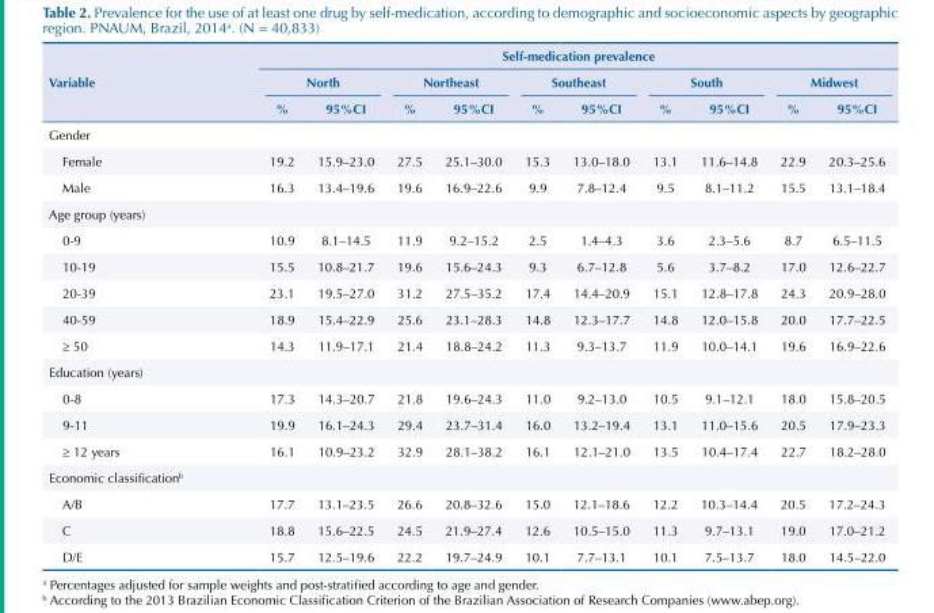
<table><thead><tr><td rowspan="3">Variable</td><td colspan="10">Self-medication prevalence</td></tr><tr><td colspan="2">North</td><td colspan="2">Northeast</td><td colspan="2">Southeast</td><td colspan="2">South</td><td colspan="2">Midwest</td></tr><tr><td>%</td><td>95%CI</td><td>%</td><td>95%CI</td><td>%</td><td>95%CI</td><td>%</td><td>95%CI</td><td>%</td><td>95%CI</td></tr></thead><tbody><tr><td colspan="11">Gender</td></tr><tr><td>Female</td><td>19.2</td><td>15.9–23.0</td><td>27.5</td><td>25.1–30.0</td><td>15.3</td><td>13.0–18.0</td><td>13.1</td><td>11.6–14.8</td><td>22.9</td><td>20.3–25.6</td></tr><tr><td>Male</td><td>16.3</td><td>13.4–19.6</td><td>19.6</td><td>16.9–22.6</td><td>9.9</td><td>7.8–12.4</td><td>9.5</td><td>8.1–11.2</td><td>15.5</td><td>13.1–18.4</td></tr><tr><td colspan="11">Age group (years)</td></tr><tr><td>0-9</td><td>10.9</td><td>8.1–14.5</td><td>11.9</td><td>9.2–15.2</td><td>2.5</td><td>1.4–4.3</td><td>3.6</td><td>2.3–5.6</td><td>8.7</td><td>6.5–11.5</td></tr><tr><td>10-19</td><td>15.5</td><td>10.8–21.7</td><td>19.6</td><td>15.6–24.3</td><td>9.3</td><td>6.7–12.8</td><td>5.6</td><td>3.7–8.2</td><td>17.0</td><td>12.6–22.7</td></tr><tr><td>20-39</td><td>23.1</td><td>19.5–27.0</td><td>31.2</td><td>27.5–35.2</td><td>17.4</td><td>14.4–20.9</td><td>15.1</td><td>12.8–17.8</td><td>24.3</td><td>20.9–28.0</td></tr><tr><td>40-59</td><td>18.9</td><td>15.4–22.9</td><td>25.6</td><td>23.1–28.3</td><td>14.8</td><td>12.3–17.7</td><td>14.8</td><td>12.0–15.8</td><td>20.0</td><td>17.7–22.5</td></tr><tr><td>≥ 50</td><td>14.3</td><td>11.9–17.1</td><td>21.4</td><td>18.8–24.2</td><td>11.3</td><td>9.3–13.7</td><td>11.9</td><td>10.0–14.1</td><td>19.6</td><td>16.9–22.6</td></tr><tr><td colspan="11">Education (years)</td></tr><tr><td>0-8</td><td>17.3</td><td>14.3–20.7</td><td>21.8</td><td>19.6–24.3</td><td>11.0</td><td>9.2–13.0</td><td>10.5</td><td>9.1–12.1</td><td>18.0</td><td>15.8–20.5</td></tr><tr><td>9-11</td><td>19.9</td><td>16.1–24.3</td><td>29.4</td><td>23.7–31.4</td><td>16.0</td><td>13.2–19.4</td><td>13.1</td><td>11.0–15.6</td><td>20.5</td><td>17.9–23.3</td></tr><tr><td>≥ 12 years</td><td>16.1</td><td>10.9–23.2</td><td>32.9</td><td>28.1–38.2</td><td>16.1</td><td>12.1–21.0</td><td>13.5</td><td>10.4–17.4</td><td>22.7</td><td>18.2–28.0</td></tr><tr><td colspan="11">Economic classification<sup>b</sup></td></tr><tr><td>A/B</td><td>17.7</td><td>13.1–23.5</td><td>26.6</td><td>20.8–32.6</td><td>15.0</td><td>12.1–18.6</td><td>12.2</td><td>10.3–14.4</td><td>20.5</td><td>17.2–24.3</td></tr><tr><td>C</td><td>18.8</td><td>15.6–22.5</td><td>24.5</td><td>21.9–27.4</td><td>12.6</td><td>10.5–15.0</td><td>11.3</td><td>9.7–13.1</td><td>19.0</td><td>17.0–21.2</td></tr><tr><td>D/E</td><td>15.7</td><td>12.5–19.6</td><td>22.2</td><td>19.7–24.9</td><td>10.1</td><td>7.7–13.1</td><td>10.1</td><td>7.5–13.7</td><td>18.0</td><td>14.5–22.0</td></tr></tbody></table>